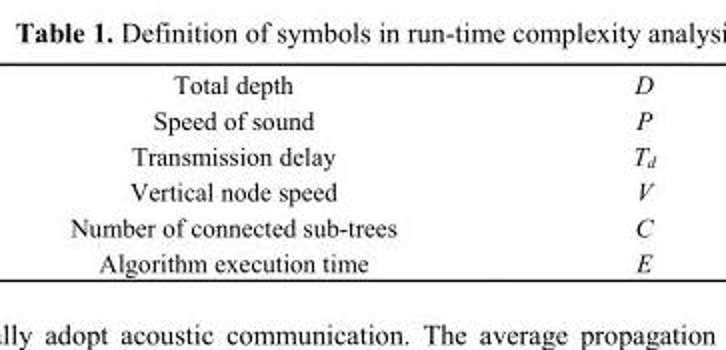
<table><tbody><tr><td>Total depth</td><td>D</td></tr><tr><td>Speed of sound</td><td>P</td></tr><tr><td>Transmission delay</td><td>T<sub>d</sub></td></tr><tr><td>Vertical node speed</td><td>V</td></tr><tr><td>Number of connected sub-trees</td><td>C</td></tr><tr><td>Algorithm execution time</td><td>E</td></tr></tbody></table>